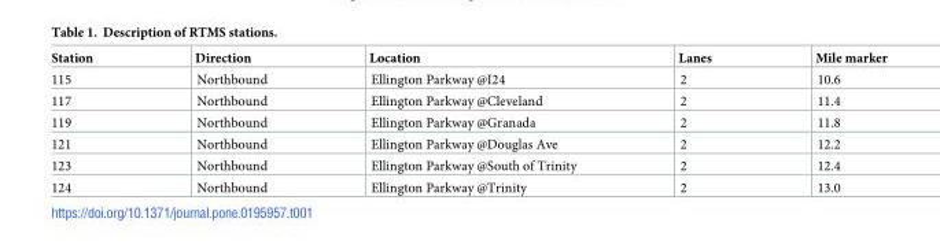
<table><thead><tr><td>Station</td><td>Direction</td><td>Location</td><td>Lanes</td><td>Mile marker</td></tr></thead><tbody><tr><td>115</td><td>Northbound</td><td>Ellington Parkway @I24</td><td>2</td><td>10.6</td></tr><tr><td>117</td><td>Northbound</td><td>Ellington Parkway @Cleveland</td><td>2</td><td>11.4</td></tr><tr><td>119</td><td>Northbound</td><td>Ellington Parkway @Granada</td><td>2</td><td>11.8</td></tr><tr><td>121</td><td>Northbound</td><td>Ellington Parkway @Douglas Ave</td><td>2</td><td>12.2</td></tr><tr><td>123</td><td>Northbound</td><td>Ellington Parkway @South of Trinity</td><td>2</td><td>12.4</td></tr><tr><td>124</td><td>Northbound</td><td>Ellington Parkway @Trinity</td><td>2</td><td>13.0</td></tr></tbody></table>